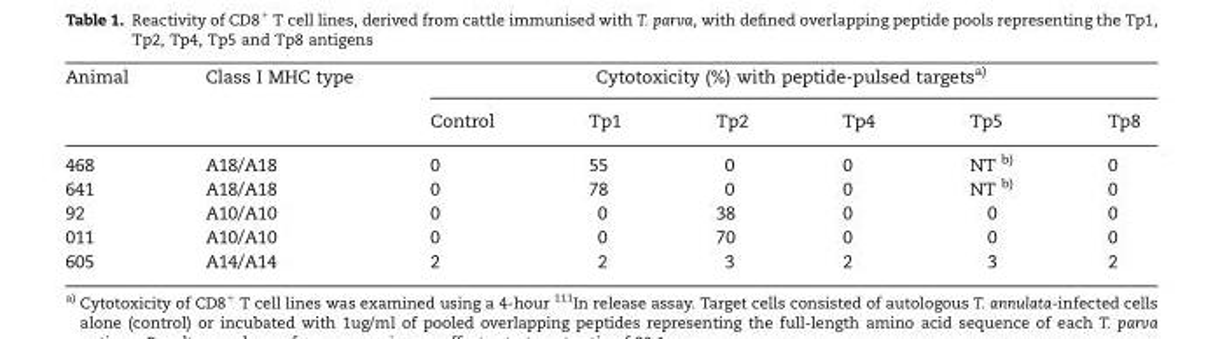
<table><thead><tr><td rowspan="2">Animal</td><td rowspan="2">Class I MHC type</td><td colspan="6">Cytotoxicity (%) with peptide-pulsed targetsa)</td></tr><tr><td>Control</td><td>Tp1</td><td>Tp2</td><td>Tp4</td><td>Tp5</td><td>Tp8</td></tr></thead><tbody><tr><td>468</td><td>A18/A18</td><td>0</td><td>55</td><td>0</td><td>0</td><td>NT b)</td><td>0</td></tr><tr><td>641</td><td>A18/A18</td><td>0</td><td>78</td><td>0</td><td>0</td><td>NT b)</td><td>0</td></tr><tr><td>92</td><td>A10/A10</td><td>0</td><td>0</td><td>38</td><td>0</td><td>0</td><td>0</td></tr><tr><td>011</td><td>A10/A10</td><td>0</td><td>0</td><td>70</td><td>0</td><td>0</td><td>0</td></tr><tr><td>605</td><td>A14/A14</td><td>2</td><td>2</td><td>3</td><td>2</td><td>3</td><td>2</td></tr></tbody></table>